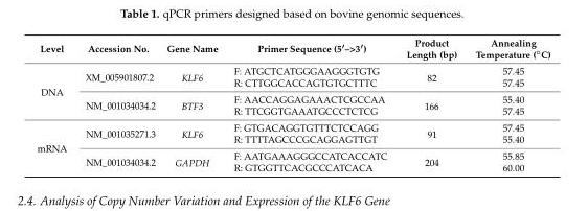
<table><thead><tr><td>Level</td><td>Accession No.</td><td>Gene Name</td><td>Primer Sequence (5′–&gt;3′)</td><td>Product Length (bp)</td><td>Annealing Temperature (◦C)</td></tr></thead><tbody><tr><td rowspan="4">DNA</td><td rowspan="2">XM_005901807.2</td><td rowspan="2">KLF6</td><td>F: ATGCTCATGGGAAGGGTGTG</td><td rowspan="2">82</td><td>57.45</td></tr><tr><td>R: CTTGGCACCAGTGTGCTTTC</td><td>57.45</td></tr><tr><td rowspan="2">NM_001034034.2</td><td rowspan="2">BTF3</td><td>F: AACCAGGAGAAACTCGCCAA</td><td rowspan="2">166</td><td>55.40</td></tr><tr><td>R: TTCGGTGAAATGCCCTCTCG</td><td>57.45</td></tr><tr><td rowspan="4">mRNA</td><td rowspan="2">NM_001035271.3</td><td rowspan="2">KLF6</td><td>F: GTGACAGGTGTTTCTCCAGG</td><td rowspan="2">91</td><td>57.45</td></tr><tr><td>R: TTTTAGCCCGCAGGAGTTGT</td><td>55.40</td></tr><tr><td rowspan="2">NM_001034034.2</td><td rowspan="2">GAPDH</td><td>F: AATGAAAGGGCCATCACCATC</td><td rowspan="2">204</td><td>55.85</td></tr><tr><td>R: GTGGTTCACGCCCATCACA</td><td>60.00</td></tr></tbody></table>